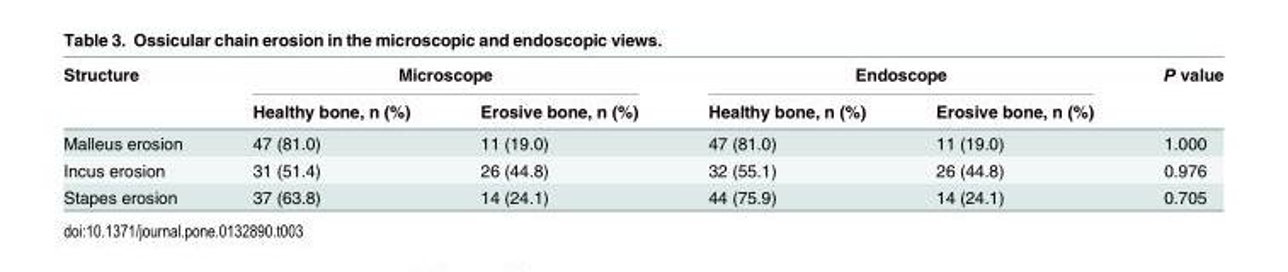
<table><thead><tr><td rowspan="2">Structure</td><td colspan="2">Microscope</td><td colspan="2">Endoscope</td><td rowspan="2">P value</td></tr><tr><td>Healthy bone, n (%)</td><td>Erosive bone, n (%)</td><td>Healthy bone, n (%)</td><td>Erosive bone, n (%)</td></tr></thead><tbody><tr><td>Malleus erosion</td><td>47 (81.0)</td><td>11 (19.0)</td><td>47 (81.0)</td><td>11 (19.0)</td><td>1.000</td></tr><tr><td>Incus erosion</td><td>31 (51.4)</td><td>26 (44.8)</td><td>32 (55.1)</td><td>26 (44.8)</td><td>0.976</td></tr><tr><td>Stapes erosion</td><td>37 (63.8)</td><td>14 (24.1)</td><td>44 (75.9)</td><td>14 (24.1)</td><td>0.705</td></tr></tbody></table>